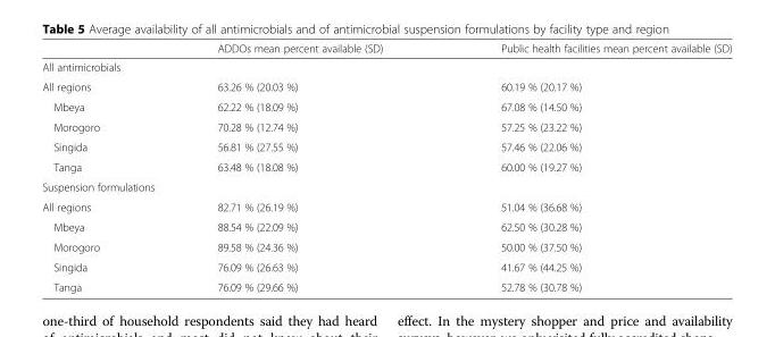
<table><thead><tr><td></td><td>ADDOs mean percent available (SD)</td><td>Public health facilities mean percent available (SD)</td></tr></thead><tbody><tr><td colspan="3">All antimicrobials</td></tr><tr><td>All regions</td><td>63.26 % (20.03 %)</td><td>60.19 % (20.17 %)</td></tr><tr><td>Mbeya</td><td>62.22 % (18.09 %)</td><td>67.08 % (14.50 %)</td></tr><tr><td>Morogoro</td><td>70.28 % (12.74 %)</td><td>57.25 % (23.22 %)</td></tr><tr><td>Singida</td><td>56.81 % (27.55 %)</td><td>57.46 % (22.06 %)</td></tr><tr><td>Tanga</td><td>63.48 % (18.08 %)</td><td>60.00 % (19.27 %)</td></tr><tr><td colspan="3">Suspension formulations</td></tr><tr><td>All regions</td><td>82.71 % (26.19 %)</td><td>51.04 % (36.68 %)</td></tr><tr><td>Mbeya</td><td>88.54 % (22.09 %)</td><td>62.50 % (30.28 %)</td></tr><tr><td>Morogoro</td><td>89.58 % (24.36 %)</td><td>50.00 % (37.50 %)</td></tr><tr><td>Singida</td><td>76.09 % (26.63 %)</td><td>41.67 % (44.25 %)</td></tr><tr><td>Tanga</td><td>76.09 % (29.66 %)</td><td>52.78 % (30.78 %)</td></tr></tbody></table>